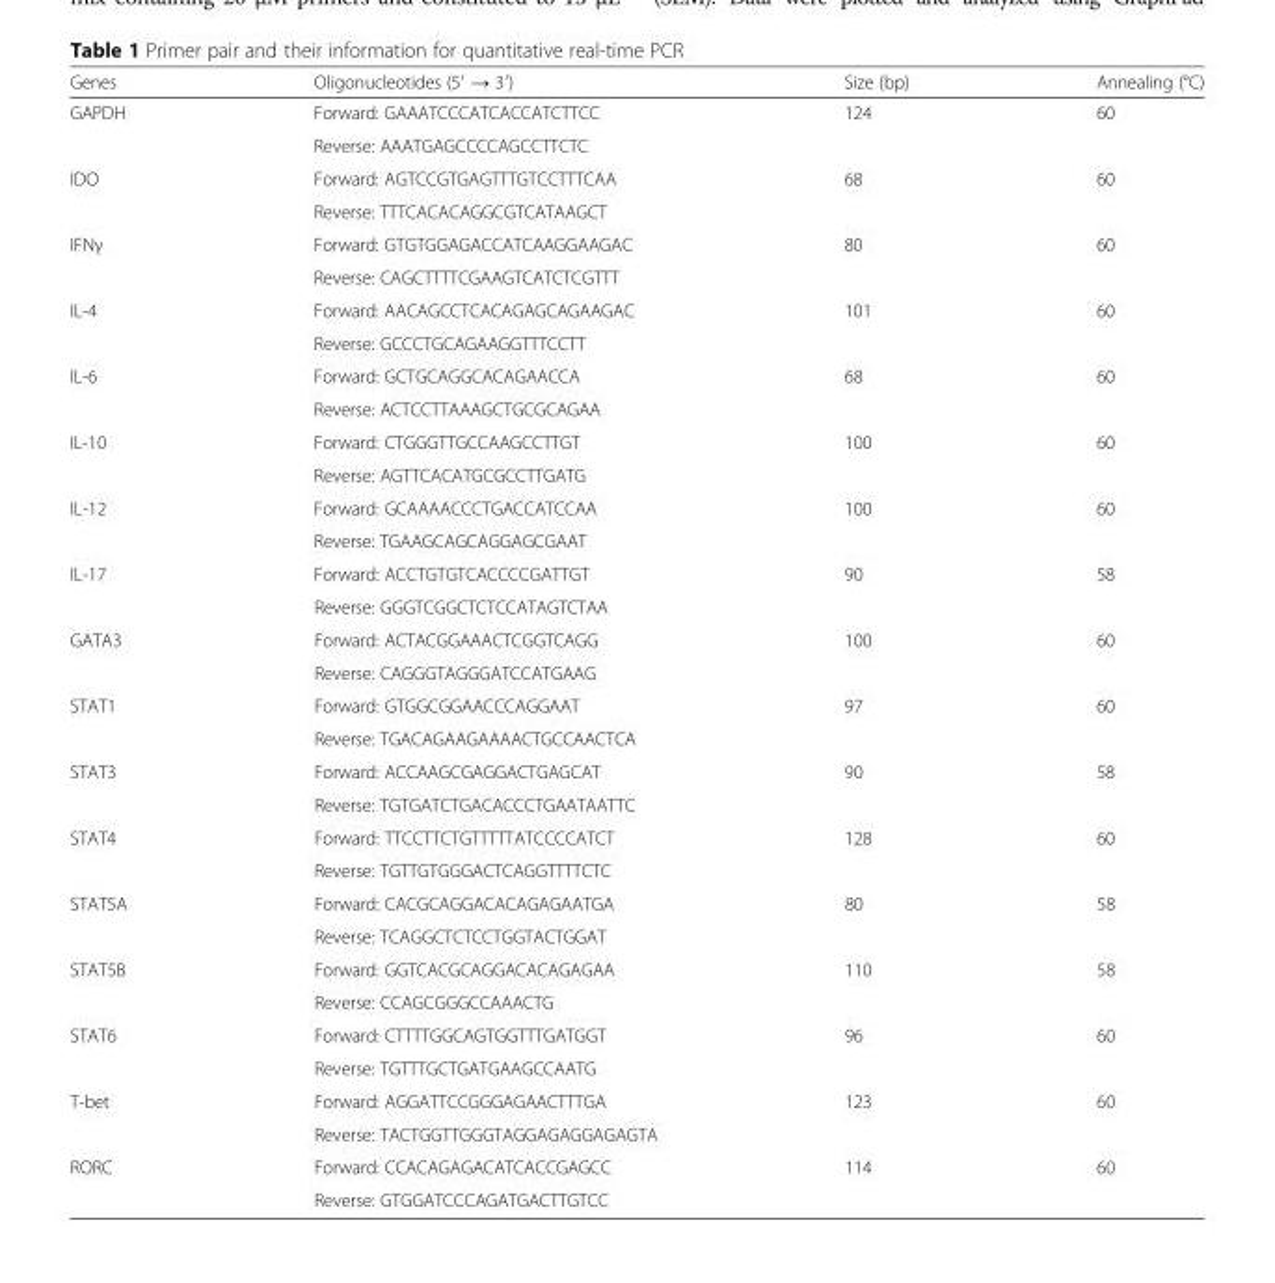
<table><thead><tr><td>Genes</td><td>Oligonucleotides (5′ → 3′)</td><td>Size (bp)</td><td>Annealing (°C)</td></tr></thead><tbody><tr><td rowspan="2">GAPDH</td><td>Forward: GAAATCCCATCACCATCTTCC</td><td rowspan="2">124</td><td rowspan="2">60</td></tr><tr><td>Reverse: AAATGAGCCCCAGCCTTCTC</td></tr><tr><td rowspan="2">IDO</td><td>Forward: AGTCCGTGAGTTTGTCCTTTCAA</td><td rowspan="2">68</td><td rowspan="2">60</td></tr><tr><td>Reverse: TTTCACACAGGCGTCATAAGCT</td></tr><tr><td rowspan="2">IFNγ</td><td>Forward: GTGTGGAGACCATCAAGGAAGAC</td><td rowspan="2">80</td><td rowspan="2">60</td></tr><tr><td>Reverse: CAGCTTTTCGAAGTCATCTCGTTT</td></tr><tr><td rowspan="2">IL-4</td><td>Forward: AACAGCCTCACAGAGCAGAAGAC</td><td rowspan="2">101</td><td rowspan="2">60</td></tr><tr><td>Reverse: GCCCTGCAGAAGGTTTCCTT</td></tr><tr><td rowspan="2">IL-6</td><td>Forward: GCTGCAGGCACAGAACCA</td><td rowspan="2">68</td><td rowspan="2">60</td></tr><tr><td>Reverse: ACTCCTTAAAGCTGCGCAGAA</td></tr><tr><td rowspan="2">IL-10</td><td>Forward: CTGGGTTGCCAAGCCTTGT</td><td rowspan="2">100</td><td rowspan="2">60</td></tr><tr><td>Reverse: AGTTCACATGCGCCTTGATG</td></tr><tr><td rowspan="2">IL-12</td><td>Forward: GCAAAACCCTGACCATCCAA</td><td rowspan="2">100</td><td rowspan="2">60</td></tr><tr><td>Reverse: TGAAGCAGCAGGAGCGAAT</td></tr><tr><td rowspan="2">IL-17</td><td>Forward: ACCTGTGTCACCCCGATTGT</td><td rowspan="2">90</td><td rowspan="2">58</td></tr><tr><td>Reverse: GGGTCGGCTCTCCATAGTCTAA</td></tr><tr><td rowspan="2">GATA3</td><td>Forward: ACTACGGAAACTCGGTCAGG</td><td rowspan="2">100</td><td rowspan="2">60</td></tr><tr><td>Reverse: CAGGGTAGGGATCCATGAAG</td></tr><tr><td rowspan="2">STAT1</td><td>Forward: GTGGCGGAACCCAGGAAT</td><td rowspan="2">97</td><td rowspan="2">60</td></tr><tr><td>Reverse: TGACAGAAGAAAACTGCCAACTCA</td></tr><tr><td rowspan="2">STAT3</td><td>Forward: ACCAAGCGAGGACTGAGCAT</td><td rowspan="2">90</td><td rowspan="2">58</td></tr><tr><td>Reverse: TGTGATCTGACACCCTGAATAATTC</td></tr><tr><td rowspan="2">STAT4</td><td>Forward: TTCCTTCTGTTTTTATCCCCATCT</td><td rowspan="2">128</td><td rowspan="2">60</td></tr><tr><td>Reverse: TGTTGTGGGACTCAGGTTTTCTC</td></tr><tr><td rowspan="2">STAT5A</td><td>Forward: CACGCAGGACACAGAGAATGA</td><td rowspan="2">80</td><td rowspan="2">58</td></tr><tr><td>Reverse: TCAGGCTCTCCTGGTACTGGAT</td></tr><tr><td rowspan="2">STAT5B</td><td>Forward: GGTCACGCAGGACACAGAGAA</td><td rowspan="2">110</td><td rowspan="2">58</td></tr><tr><td>Reverse: CCAGCGGGCCAAACTG</td></tr><tr><td rowspan="2">STAT6</td><td>Forward: CTTTTGGCAGTGGTTTGATGGT</td><td rowspan="2">96</td><td rowspan="2">60</td></tr><tr><td>Reverse: TGTTTGCTGATGAAGCCAATG</td></tr><tr><td rowspan="2">T-bet</td><td>Forward: AGGATTCCGGGAGAACTTTGA</td><td rowspan="2">123</td><td rowspan="2">60</td></tr><tr><td>Reverse: TACTGGTTGGGTAGGAGAGGAGAGTA</td></tr><tr><td rowspan="2">RORC</td><td>Forward: CCACAGAGACATCACCGAGCC</td><td rowspan="2">114</td><td rowspan="2">60</td></tr><tr><td>Reverse: GTGGATCCCAGATGACTTGTCC</td></tr></tbody></table>